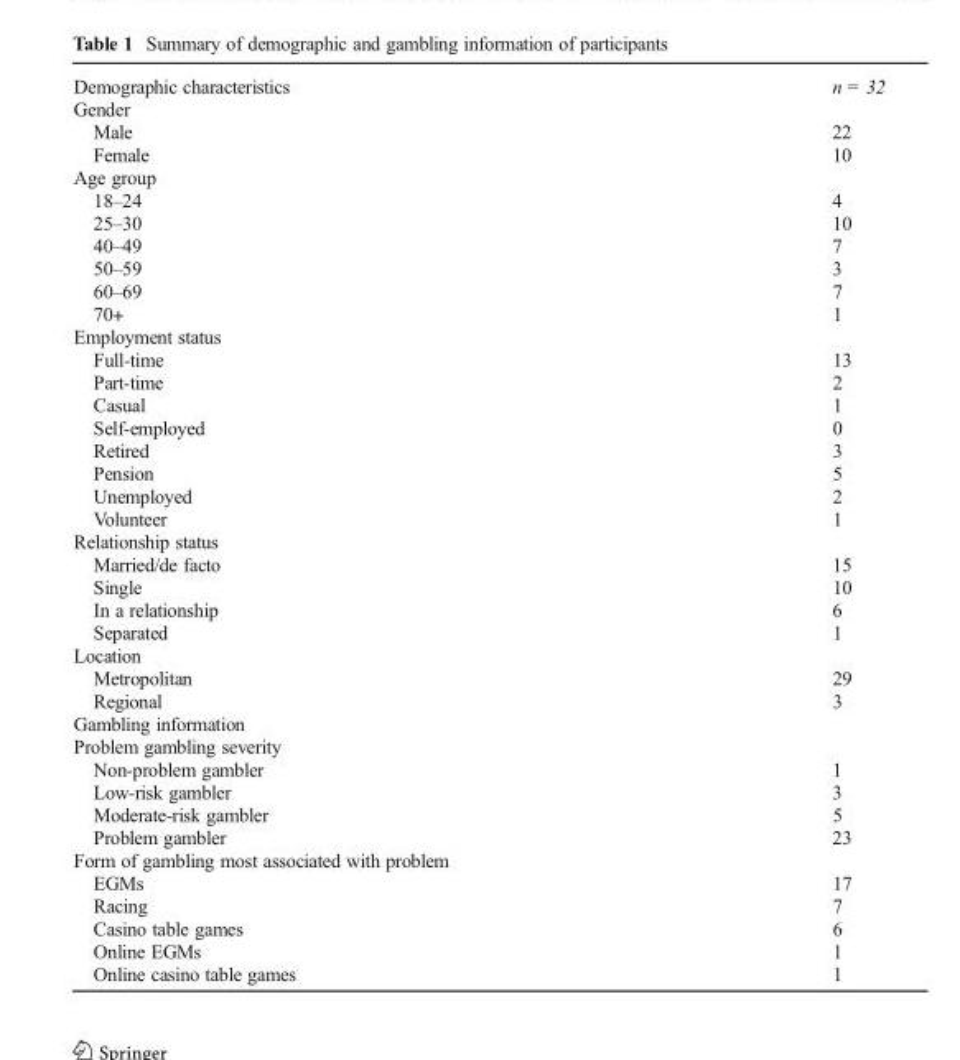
<table><tbody><tr><td>Demographic characteristics</td><td>n = 32</td></tr><tr><td colspan="2">Gender</td></tr><tr><td>Male</td><td>22</td></tr><tr><td>Female</td><td>10</td></tr><tr><td colspan="2">Age group</td></tr><tr><td>18–24</td><td>4</td></tr><tr><td>25–30</td><td>10</td></tr><tr><td>40–49</td><td>7</td></tr><tr><td>50–59</td><td>3</td></tr><tr><td>60–69</td><td>7</td></tr><tr><td>70+</td><td>1</td></tr><tr><td colspan="2">Employment status</td></tr><tr><td>Full-time</td><td>13</td></tr><tr><td>Part-time</td><td>2</td></tr><tr><td>Casual</td><td>1</td></tr><tr><td>Self-employed</td><td>0</td></tr><tr><td>Retired</td><td>3</td></tr><tr><td>Pension</td><td>5</td></tr><tr><td>Unemployed</td><td>2</td></tr><tr><td>Volunteer</td><td>1</td></tr><tr><td colspan="2">Relationship status</td></tr><tr><td>Married/de facto</td><td>15</td></tr><tr><td>Single</td><td>10</td></tr><tr><td>In a relationship</td><td>6</td></tr><tr><td>Separated</td><td>1</td></tr><tr><td colspan="2">Location</td></tr><tr><td>Metropolitan</td><td>29</td></tr><tr><td>Regional</td><td>3</td></tr><tr><td colspan="2">Gambling information</td></tr><tr><td colspan="2">Problem gambling severity</td></tr><tr><td>Non-problem gambler</td><td>1</td></tr><tr><td>Low-risk gambler</td><td>3</td></tr><tr><td>Moderate-risk gambler</td><td>5</td></tr><tr><td>Problem gambler</td><td>23</td></tr><tr><td colspan="2">Form of gambling most associated with problem</td></tr><tr><td>EGMs</td><td>17</td></tr><tr><td>Racing</td><td>7</td></tr><tr><td>Casino table games</td><td>6</td></tr><tr><td>Online EGMs</td><td>1</td></tr><tr><td>Online casino table games</td><td>1</td></tr></tbody></table>